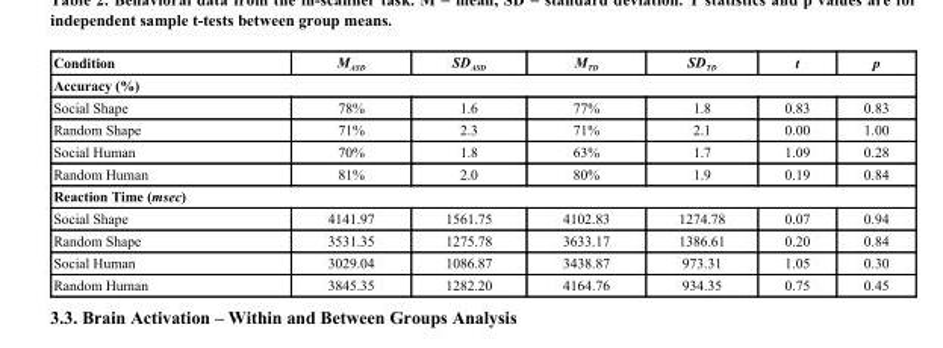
<table><thead><tr><td>Condition</td><td>M<sub>ASD</sub></td><td>SD<sub>ASD</sub></td><td>M<sub>TD</sub></td><td>SD<sub>TD</sub></td><td>t</td><td>p</td></tr></thead><tbody><tr><td colspan="7">Accuracy (%)</td></tr><tr><td>Social Shape</td><td>78%</td><td>1.6</td><td>77%</td><td>1.8</td><td>0.83</td><td>0.83</td></tr><tr><td>Random Shape</td><td>71%</td><td>2.3</td><td>71%</td><td>2.1</td><td>0.00</td><td>1.00</td></tr><tr><td>Social Human</td><td>70%</td><td>1.8</td><td>63%</td><td>1.7</td><td>1.09</td><td>0.28</td></tr><tr><td>Random Human</td><td>81%</td><td>2.0</td><td>80%</td><td>1.9</td><td>0.19</td><td>0.84</td></tr><tr><td colspan="7">Reaction Time (msec)</td></tr><tr><td>Social Shape</td><td>4141.97</td><td>1561.75</td><td>4102.83</td><td>1274.78</td><td>0.07</td><td>0.94</td></tr><tr><td>Random Shape</td><td>3531.35</td><td>1275.78</td><td>3633.17</td><td>1386.61</td><td>0.20</td><td>0.84</td></tr><tr><td>Social Human</td><td>3029.04</td><td>1086.87</td><td>3438.87</td><td>973.31</td><td>1.05</td><td>0.30</td></tr><tr><td>Random Human</td><td>3845.35</td><td>1282.20</td><td>4164.76</td><td>934.35</td><td>0.75</td><td>0.45</td></tr></tbody></table>